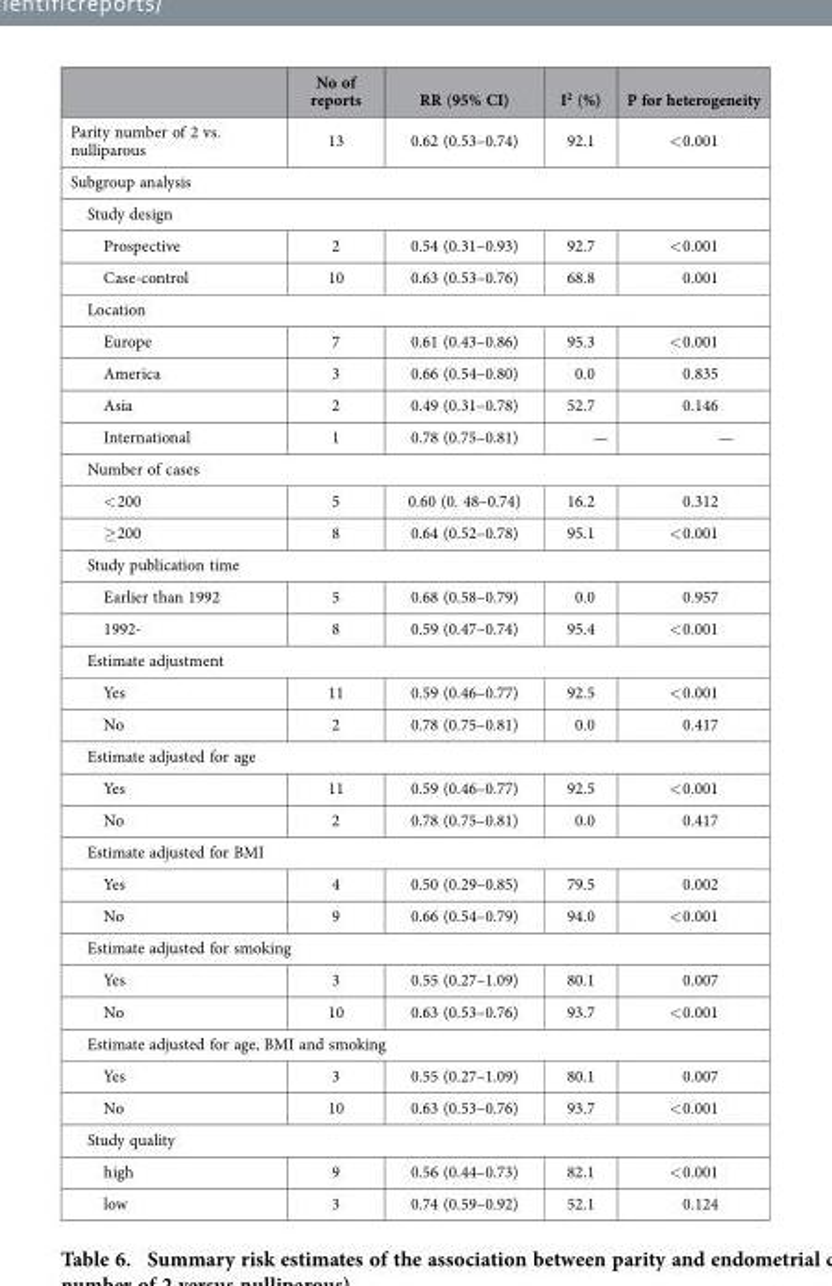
<table><thead><tr><td></td><td>No of reports</td><td>RR (95% CI)</td><td>I<sup>2</sup> (%)</td><td>P for heterogeneity</td></tr></thead><tbody><tr><td>Parity number of 2 vs. nulliparous</td><td>13</td><td>0.62 (0.53–0.74)</td><td>92.1</td><td>&lt; 0.001</td></tr><tr><td colspan="5">Subgroup analysis</td></tr><tr><td colspan="5">Study design</td></tr><tr><td>Prospective</td><td>2</td><td>0.54 (0.31–0.93)</td><td>92.7</td><td>&lt; 0.001</td></tr><tr><td>Case-control</td><td>10</td><td>0.63 (0.53–0.76)</td><td>68.8</td><td>0.001</td></tr><tr><td colspan="5">Location</td></tr><tr><td>Europe</td><td>7</td><td>0.61 (0.43–0.86)</td><td>95.3</td><td>&lt; 0.001</td></tr><tr><td>America</td><td>3</td><td>0.66 (0.54–0.80)</td><td>0.0</td><td>0.835</td></tr><tr><td>Asia</td><td>2</td><td>0.49 (0.31–0.78)</td><td>52.7</td><td>0.146</td></tr><tr><td>International</td><td>1</td><td>0.78 (0.75–0.81)</td><td>—</td><td>—</td></tr><tr><td colspan="5">Number of cases</td></tr><tr><td>&lt; 200</td><td>5</td><td>0.60 (0. 48–0.74)</td><td>16.2</td><td>0.312</td></tr><tr><td>≥ 200</td><td>8</td><td>0.64 (0.52–0.78)</td><td>95.1</td><td>&lt; 0.001</td></tr><tr><td colspan="5">Study publication time</td></tr><tr><td>Earlier than 1992</td><td>5</td><td>0.68 (0.58–0.79)</td><td>0.0</td><td>0.957</td></tr><tr><td>1992-</td><td>8</td><td>0.59 (0.47–0.74)</td><td>95.4</td><td>&lt; 0.001</td></tr><tr><td colspan="5">Estimate adjustment</td></tr><tr><td>Yes</td><td>11</td><td>0.59 (0.46–0.77)</td><td>92.5</td><td>&lt; 0.001</td></tr><tr><td>No</td><td>2</td><td>0.78 (0.75–0.81)</td><td>0.0</td><td>0.417</td></tr><tr><td colspan="5">Estimate adjusted for age</td></tr><tr><td>Yes</td><td>11</td><td>0.59 (0.46–0.77)</td><td>92.5</td><td>&lt; 0.001</td></tr><tr><td>No</td><td>2</td><td>0.78 (0.75–0.81)</td><td>0.0</td><td>0.417</td></tr><tr><td colspan="5">Estimate adjusted for BMI</td></tr><tr><td>Yes</td><td>4</td><td>0.50 (0.29–0.85)</td><td>79.5</td><td>0.002</td></tr><tr><td>No</td><td>9</td><td>0.66 (0.54–0.79)</td><td>94.0</td><td>&lt; 0.001</td></tr><tr><td colspan="5">Estimate adjusted for smoking</td></tr><tr><td>Yes</td><td>3</td><td>0.55 (0.27–1.09)</td><td>80.1</td><td>0.007</td></tr><tr><td>No</td><td>10</td><td>0.63 (0.53–0.76)</td><td>93.7</td><td>&lt; 0.001</td></tr><tr><td colspan="5">Estimate adjusted for age, BMI and smoking</td></tr><tr><td>Yes</td><td>3</td><td>0.55 (0.27–1.09)</td><td>80.1</td><td>0.007</td></tr><tr><td>No</td><td>10</td><td>0.63 (0.53–0.76)</td><td>93.7</td><td>&lt; 0.001</td></tr><tr><td colspan="5">Study quality</td></tr><tr><td>high</td><td>9</td><td>0.56 (0.44–0.73)</td><td>82.1</td><td>&lt; 0.001</td></tr><tr><td>low</td><td>3</td><td>0.74 (0.59–0.92)</td><td>52.1</td><td>0.124</td></tr></tbody></table>